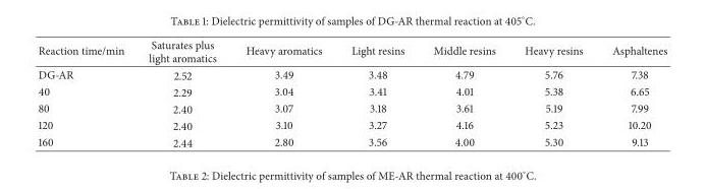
<table><thead><tr><td>Reaction time/min</td><td>Saturates plus light aromatics</td><td>Heavy aromatics</td><td>Light resins</td><td>Middle resins</td><td>Heavy resins</td><td>Asphaltenes</td></tr></thead><tbody><tr><td>DG-AR</td><td>2.52</td><td>3.49</td><td>3.48</td><td>4.79</td><td>5.76</td><td>7.38</td></tr><tr><td>40</td><td>2.29</td><td>3.04</td><td>3.41</td><td>4.01</td><td>5.38</td><td>6.65</td></tr><tr><td>80</td><td>2.40</td><td>3.07</td><td>3.18</td><td>3.61</td><td>5.19</td><td>7.99</td></tr><tr><td>120</td><td>2.40</td><td>3.10</td><td>3.27</td><td>4.16</td><td>5.23</td><td>10.20</td></tr><tr><td>160</td><td>2.44</td><td>2.80</td><td>3.56</td><td>4.00</td><td>5.30</td><td>9.13</td></tr></tbody></table>